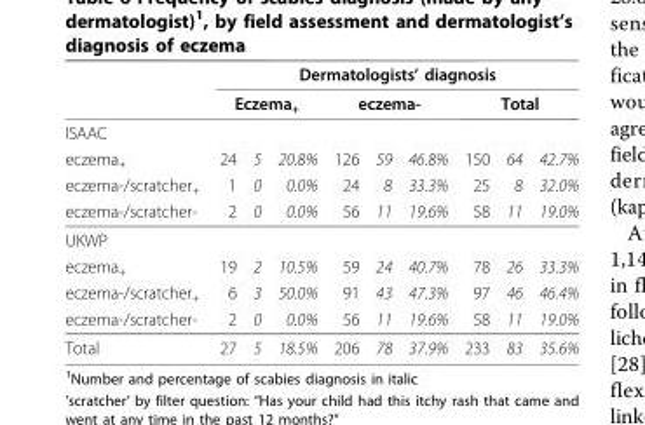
<table><thead><tr><td rowspan="6">ISAAC eczema+ eczema-/scratcher+ eczema-/scratcher-</td><td colspan="9">Dermatologists’ diagnosis</td></tr><tr><td colspan="3">Eczema+</td><td colspan="3">eczema-</td><td colspan="3">Total</td></tr><tr><td rowspan="4">24 1 2</td><td rowspan="4">5 0 0</td><td rowspan="4">20.8% 0.0% 0.0%</td><td rowspan="4">126 24 56</td><td rowspan="4">59 8 11</td><td rowspan="4">46.8% 33.3% 19.6%</td><td rowspan="4">150 25 58</td><td rowspan="4">64 8 11</td><td rowspan="4">42.7% 32.0% 19.0%</td></tr><tr></tr><tr></tr><tr></tr></thead><tbody><tr><td colspan="10">UKWP</td></tr><tr><td>eczema+</td><td>19</td><td>2</td><td>10.5%</td><td>59</td><td>24</td><td>40.7%</td><td>78</td><td>26</td><td>33.3%</td></tr><tr><td>eczema-/scratcher<sub>+</sub></td><td>6</td><td>3</td><td>50.0%</td><td>91</td><td>43</td><td>47.3%</td><td>97</td><td>46</td><td>46.4%</td></tr><tr><td>eczema-/scratcher-</td><td>2</td><td>0</td><td>0.0%</td><td>56</td><td>11</td><td>19.6%</td><td>58</td><td>11</td><td>19.0%</td></tr><tr><td>Total</td><td>27</td><td>5</td><td>18.5%</td><td>206</td><td>78</td><td>37.9%</td><td>233</td><td>83</td><td>35.6%</td></tr></tbody></table>